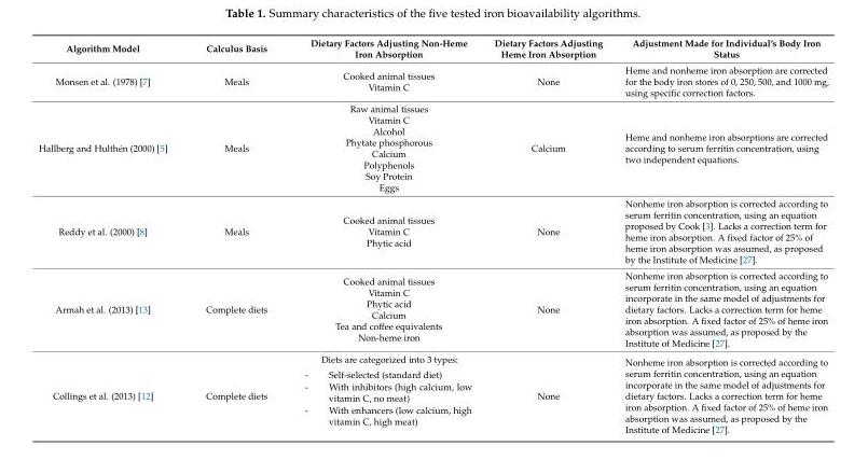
<table><thead><tr><td>Algorithm Model</td><td>Calculus Basis</td><td>Dietary Factors Adjusting Non-Heme Iron Absorption</td><td>Dietary Factors Adjusting Heme Iron Absorption</td><td>Adjustment Made for Individual’s Body Iron Status</td></tr></thead><tbody><tr><td>Monsen et al. (1978) [7]</td><td>Meals</td><td>Cooked animal tissues Vitamin C</td><td>None</td><td>Heme and nonheme iron absorption are corrected for the body iron stores of 0, 250, 500, and 1000 mg, using specific correction factors.</td></tr><tr><td>Hallberg and Hulthén (2000) [5]</td><td>Meals</td><td>Raw animal tissues Vitamin C Alcohol Phytate phosphorous Calcium Polyphenols Soy Protein Eggs</td><td>Calcium</td><td>Heme and nonheme iron absorptions are corrected according to serum ferritin concentration, using two independent equations.</td></tr><tr><td>Reddy et al. (2000) [8]</td><td>Meals</td><td>Cooked animal tissues Vitamin C Phytic acid</td><td>None</td><td>Nonheme iron absorption is corrected according to serum ferritin concentration, using an equation proposed by Cook [3]. Lacks a correction term for heme iron absorption. A fixed factor of 25% of heme iron absorption was assumed, as proposed by the Institute of Medicine [27].</td></tr><tr><td>Armah et al. (2013) [13]</td><td>Complete diets</td><td>Cooked animal tissues Vitamin C Phytic acid Calcium Tea and coffee equivalents Non-heme iron</td><td>None</td><td>Nonheme iron absorption is corrected according to serum ferritin concentration, using an equation incorporate in the same model of adjustments for dietary factors. Lacks a correction term for heme iron absorption. A fixed factor of 25% of heme iron absorption was assumed, as proposed by the Institute of Medicine [27].</td></tr><tr><td>Collings et al. (2013) [12]</td><td>Complete diets</td><td>Diets are categorized into 3 types: - Self-selected (standard diet) - With inhibitors (high calcium, low vitamin C, no meat) - With enhancers (low calcium, high vitamin C, high meat)</td><td>None</td><td>Nonheme iron absorption is corrected according to serum ferritin concentration, using an equation incorporate in the same model of adjustments for dietary factors. Lacks a correction term for heme iron absorption. A fixed factor of 25% of heme iron absorption was assumed, as proposed by the Institute of Medicine [27].</td></tr></tbody></table>